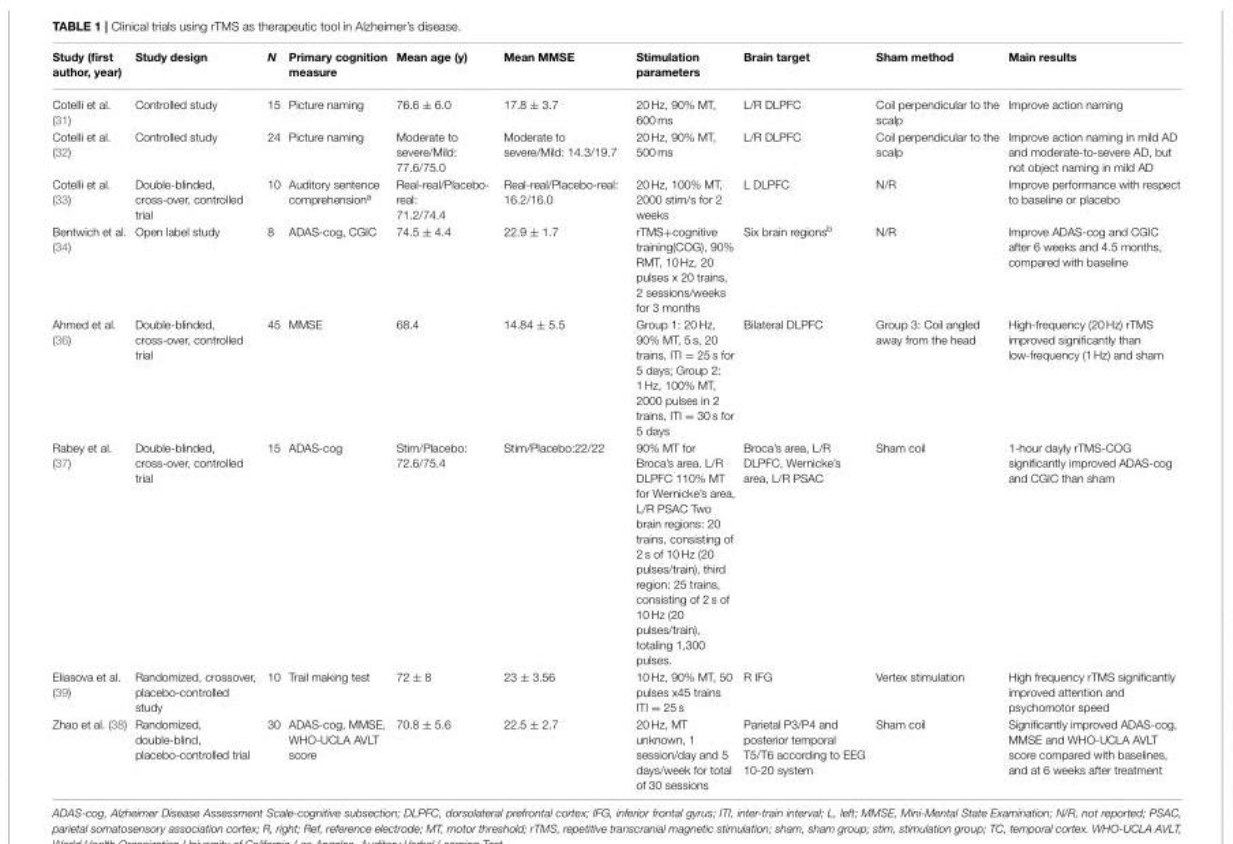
<table><thead><tr><td>Study (first author, year)</td><td>Study design</td><td>N</td><td>Primary cognition measure</td><td>Mean age (y)</td><td>Mean MMSE</td><td>Stimulation parameters</td><td>Brain target</td><td>Sham method</td><td>Main results</td></tr></thead><tbody><tr><td>Cotelli et al. (31)</td><td>Controlled study</td><td>15</td><td>Picture naming</td><td>76.6 ± 6.0</td><td>17.8 ± 3.7</td><td>20 Hz, 90% MT, 600 ms</td><td>L/R DLPFC</td><td>Coil perpendicular to the scalp</td><td>Improve action naming</td></tr><tr><td>Cotelli et al. (32)</td><td>Controlled study</td><td>24</td><td>Picture naming</td><td>Moderate to severe/Mild: 77.6/75.0</td><td>Moderate to severe/Mild: 14.3/19.7</td><td>20 Hz, 90% MT, 500 ms</td><td>L/R DLPFC</td><td>Coil perpendicular to the scalp</td><td>Improve action naming in mild AD and moderate-to-severe AD, but not object naming in mild AD</td></tr><tr><td>Cotelli et al. (33)</td><td>Double-blinded, cross-over, controlled trial</td><td>10</td><td>Auditory sentence comprehension<sup>a</sup></td><td>Real-real/Placebo- real: 71.2/74.4</td><td>Real-real/Placebo-real: 16.2/16.0</td><td>20 Hz, 100% MT, 2000 stim/s for 2 weeks</td><td>L DLPFC</td><td>N/R</td><td>Improve performance with respect to baseline or placebo</td></tr><tr><td>Bentwich et al. (34)</td><td>Open label study</td><td>8</td><td>ADAS-cog, CGIC</td><td>74.5 ± 4.4</td><td>22.9 ± 1.7</td><td>rTMS+cognitive training(COG), 90% RMT, 10 Hz, 20 pulses x 20 trains, 2 sessions/weeks for 3 months</td><td>Six brain regions<sup>b</sup></td><td>N/R</td><td>Improve ADAS-cog and CGIC after 6 weeks and 4.5 months, compared with baseline</td></tr><tr><td>Ahmed et al. (36)</td><td>Double-blinded, cross-over, controlled trial</td><td>45</td><td>MMSE</td><td>68.4</td><td>14.84 ± 5.5</td><td>Group 1: 20 Hz, 90% MT, 5 s, 20 trains, ITI = 25 s for 5 days; Group 2: 1 Hz, 100% MT, 2000 pulses in 2 trains, ITI = 30 s for 5 days</td><td>Bilateral DLPFC</td><td>Group 3: Coil angled away from the head</td><td>High-frequency (20 Hz) rTMS improved significantly than low-frequency (1 Hz) and sham</td></tr><tr><td>Rabey et al. (37)</td><td>Double-blinded, cross-over, controlled trial</td><td>15</td><td>ADAS-cog</td><td>Stim/Placebo: 72.6/75.4</td><td>Stim/Placebo:22/22</td><td>90% MT for Broca’s area. L/R DLPFC 110% MT for Wernicke’s area, L/R PSAC Two brain regions: 20 trains, consisting of 2 s of 10 Hz (20 pulses/train), third region: 25 trains, consisting of 2 s of 10 Hz (20 pulses/train), totaling 1,300 pulses.</td><td>Broca’s area, L/R DLPFC, Wernicke’s area, L/R PSAC</td><td>Sham coil</td><td>1-hour dayly rTMS-COG significantly improved ADAS-cog and CGIC than sham</td></tr><tr><td>Eliasova et al. (39)</td><td>Randomized, crossover, placebo-controlled study</td><td>10</td><td>Trail making test</td><td>72 ± 8</td><td>23 ± 3.56</td><td>10 Hz, 90% MT, 50 pulses x45 trains ITI = 25 s</td><td>R IFG</td><td>Vertex stimulation</td><td>High frequency rTMS significantly improved attention and psychomotor speed</td></tr><tr><td>Zhao et al. (38)</td><td>Randomized, double-blind, placebo-controlled trial</td><td>30</td><td>ADAS-cog, MMSE, WHO-UCLA AVLT score</td><td>70.8 ± 5.6</td><td>22.5 ± 2.7</td><td>20 Hz, MT unknown, 1 session/day and 5 days/week for total of 30 sessions</td><td>Parietal P3/P4 and posterior temporal T5/T6 according to EEG 10-20 system</td><td>Sham coil</td><td>Significantly improved ADAS-cog, MMSE and WHO-UCLA AVLT score compared with baselines, and at 6 weeks after treatment</td></tr></tbody></table>